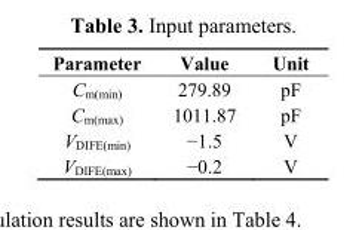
<table><thead><tr><td>Parameter</td><td>Value</td><td>Unit</td></tr></thead><tbody><tr><td>C<sub>m(min)</sub></td><td>279.89</td><td>pF</td></tr><tr><td>C<sub>m(max)</sub></td><td>1011.87</td><td>pF</td></tr><tr><td>V<sub>DIFE(min)</sub></td><td>−1.5</td><td>V</td></tr><tr><td>V<sub>DIFE(max)</sub></td><td>−0.2</td><td>V</td></tr></tbody></table>